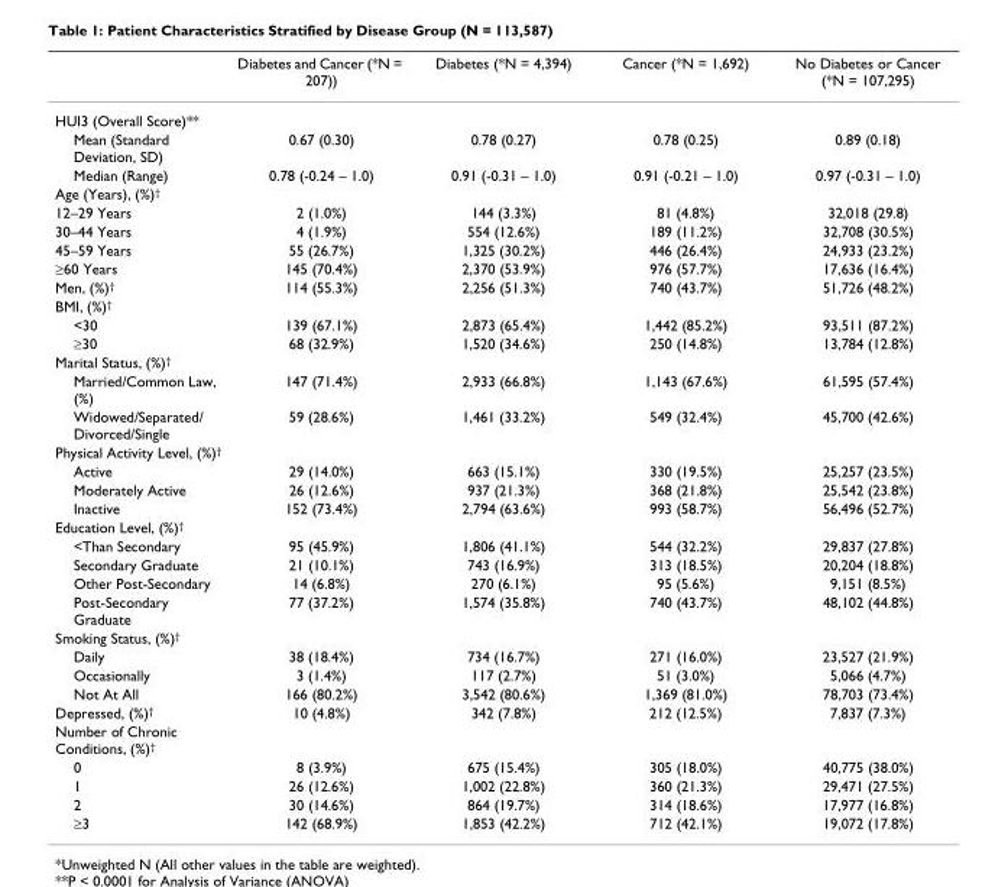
<table><thead><tr><td></td><td>Diabetes and Cancer (*N = 207))</td><td>Diabetes (*N = 4,394)</td><td>Cancer (*N = 1,692)</td><td>No Diabetes or Cancer (*N = 107,295)</td></tr></thead><tbody><tr><td colspan="5">HUI3 (Overall Score)**</td></tr><tr><td>Mean (Standard Deviation, SD)</td><td>0.67 (0.30)</td><td>0.78 (0.27)</td><td>0.78 (0.25)</td><td>0.89 (0.18)</td></tr><tr><td>Median (Range)</td><td>0.78 (-0.24 – 1.0)</td><td>0.91 (-0.31 – 1.0)</td><td>0.91 (-0.21 – 1.0)</td><td>0.97 (-0.31 – 1.0)</td></tr><tr><td colspan="5">Age (Years), (%)<sup>†</sup></td></tr><tr><td>12–29 Years</td><td>2 (1.0%)</td><td>144 (3.3%)</td><td>81 (4.8%)</td><td>32,018 (29.8)</td></tr><tr><td>30–44 Years</td><td>4 (1.9%)</td><td>554 (12.6%)</td><td>189 (11.2%)</td><td>32,708 (30.5%)</td></tr><tr><td>45–59 Years</td><td>55 (26.7%)</td><td>1,325 (30.2%)</td><td>446 (26.4%)</td><td>24,933 (23.2%)</td></tr><tr><td>≥60 Years</td><td>145 (70.4%)</td><td>2,370 (53.9%)</td><td>976 (57.7%)</td><td>17,636 (16.4%)</td></tr><tr><td>Men, (%)<sup>†</sup></td><td>114 (55.3%)</td><td>2,256 (51.3%)</td><td>740 (43.7%)</td><td>51,726 (48.2%)</td></tr><tr><td colspan="5">BMI, (%)<sup>†</sup></td></tr><tr><td>&lt;30</td><td>139 (67.1%)</td><td>2,873 (65.4%)</td><td>1,442 (85.2%)</td><td>93,511 (87.2%)</td></tr><tr><td>≥30</td><td>68 (32.9%)</td><td>1,520 (34.6%)</td><td>250 (14.8%)</td><td>13,784 (12.8%)</td></tr><tr><td colspan="5">Marital Status, (%)<sup>†</sup></td></tr><tr><td>Married/Common Law, (%)</td><td>147 (71.4%)</td><td>2,933 (66.8%)</td><td>1,143 (67.6%)</td><td>61,595 (57.4%)</td></tr><tr><td>Widowed/Separated/ Divorced/Single</td><td>59 (28.6%)</td><td>1,461 (33.2%)</td><td>549 (32.4%)</td><td>45,700 (42.6%)</td></tr><tr><td colspan="5">Physical Activity Level, (%)<sup>†</sup></td></tr><tr><td>Active</td><td>29 (14.0%)</td><td>663 (15.1%)</td><td>330 (19.5%)</td><td>25,257 (23.5%)</td></tr><tr><td>Moderately Active</td><td>26 (12.6%)</td><td>937 (21.3%)</td><td>368 (21.8%)</td><td>25,542 (23.8%)</td></tr><tr><td>Inactive</td><td>152 (73.4%)</td><td>2,794 (63.6%)</td><td>993 (58.7%)</td><td>56,496 (52.7%)</td></tr><tr><td colspan="5">Education Level, (%)<sup>†</sup></td></tr><tr><td>&lt;Than Secondary</td><td>95 (45.9%)</td><td>1,806 (41.1%)</td><td>544 (32.2%)</td><td>29,837 (27.8%)</td></tr><tr><td>Secondary Graduate</td><td>21 (10.1%)</td><td>743 (16.9%)</td><td>313 (18.5%)</td><td>20,204 (18.8%)</td></tr><tr><td>Other Post-Secondary</td><td>14 (6.8%)</td><td>270 (6.1%)</td><td>95 (5.6%)</td><td>9,151 (8.5%)</td></tr><tr><td>Post-Secondary Graduate</td><td>77 (37.2%)</td><td>1,574 (35.8%)</td><td>740 (43.7%)</td><td>48,102 (44.8%)</td></tr><tr><td colspan="5">Smoking Status, (%)<sup>†</sup></td></tr><tr><td>Daily</td><td>38 (18.4%)</td><td>734 (16.7%)</td><td>271 (16.0%)</td><td>23,527 (21.9%)</td></tr><tr><td>Occasionally</td><td>3 (1.4%)</td><td>117 (2.7%)</td><td>51 (3.0%)</td><td>5,066 (4.7%)</td></tr><tr><td>Not At All</td><td>166 (80.2%)</td><td>3,542 (80.6%)</td><td>1,369 (81.0%)</td><td>78,703 (73.4%)</td></tr><tr><td>Depressed, (%)<sup>†</sup></td><td>10 (4.8%)</td><td>342 (7.8%)</td><td>212 (12.5%)</td><td>7,837 (7.3%)</td></tr><tr><td colspan="5">Number of Chronic Conditions, (%)<sup>†</sup></td></tr><tr><td>0</td><td>8 (3.9%)</td><td>675 (15.4%)</td><td>305 (18.0%)</td><td>40,775 (38.0%)</td></tr><tr><td>1</td><td>26 (12.6%)</td><td>1,002 (22.8%)</td><td>360 (21.3%)</td><td>29,471 (27.5%)</td></tr><tr><td>2</td><td>30 (14.6%)</td><td>864 (19.7%)</td><td>314 (18.6%)</td><td>17,977 (16.8%)</td></tr><tr><td>≥3</td><td>142 (68.9%)</td><td>1,853 (42.2%)</td><td>712 (42.1%)</td><td>19,072 (17.8%)</td></tr></tbody></table>